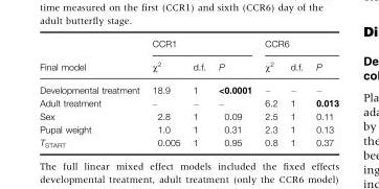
<table><thead><tr><td rowspan="2">Final model</td><td colspan="3">CCR1</td><td colspan="3">CCR6</td></tr><tr><td>χ<sup>2</sup></td><td>d.f.</td><td>P</td><td>χ<sup>2</sup></td><td>d.f.</td><td>P</td></tr></thead><tbody><tr><td>Developmental treatment</td><td>18.9</td><td>1</td><td>&lt;0.0001</td><td>–</td><td>–</td><td>–</td></tr><tr><td>Adult treatment</td><td>–</td><td>–</td><td>–</td><td>6.2</td><td>1</td><td>0.013</td></tr><tr><td>Sex</td><td>2.8</td><td>1</td><td>0.09</td><td>2.5</td><td>1</td><td>0.11</td></tr><tr><td>Pupal weight</td><td>1.0</td><td>1</td><td>0.31</td><td>2.3</td><td>1</td><td>0.13</td></tr><tr><td>T<sub>START</sub></td><td>0.005</td><td>1</td><td>0.95</td><td>0.8</td><td>1</td><td>0.37</td></tr></tbody></table>